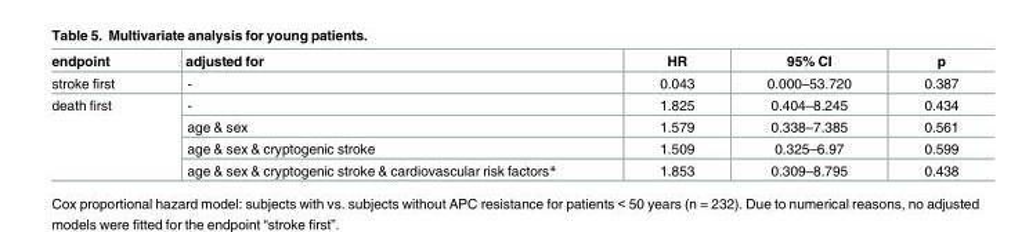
<table><thead><tr><td>endpoint</td><td>adjusted for</td><td>HR</td><td>95% CI</td><td>p</td></tr></thead><tbody><tr><td>stroke first</td><td>-</td><td>0.043</td><td>0.000–53.720</td><td>0.387</td></tr><tr><td rowspan="4">death first</td><td>-</td><td>1.825</td><td>0.404–8.245</td><td>0.434</td></tr><tr><td>age &amp; sex</td><td>1.579</td><td>0.338–7.385</td><td>0.561</td></tr><tr><td>age &amp; sex &amp; cryptogenic stroke</td><td>1.509</td><td>0.325–6.97</td><td>0.599</td></tr><tr><td>age &amp; sex &amp; cryptogenic stroke &amp; cardiovascular risk factors*</td><td>1.853</td><td>0.309–8.795</td><td>0.438</td></tr></tbody></table>